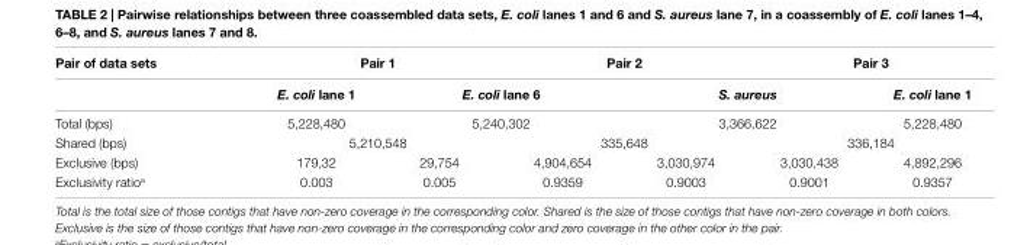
<table><tbody><tr><td rowspan="2">Pair of data sets</td><td colspan="2">Pair 1</td><td colspan="2">Pair 2</td><td colspan="2">Pair 3</td></tr><tr><td>E. coli lane 1</td><td colspan="2">E. coli lane 6</td><td colspan="2">S. aureus</td><td>E. coli lane 1</td></tr><tr><td>Total (bps)</td><td>5,228,480</td><td colspan="2">5,240,302</td><td colspan="2">3,366,622</td><td>5,228,480</td></tr><tr><td>Shared (bps)</td><td colspan="2">5,210,548</td><td colspan="2">335,648</td><td colspan="2">336,184</td></tr><tr><td>Exclusive (bps)</td><td>179,32</td><td>29,754</td><td>4,904,654</td><td>3,030,974</td><td>3,030,438</td><td>4,892,296</td></tr><tr><td>Exclusivity ratio<sup>a</sup></td><td>0.003</td><td>0.005</td><td>0.9359</td><td>0.9003</td><td>0.9001</td><td>0.9357</td></tr></tbody></table>